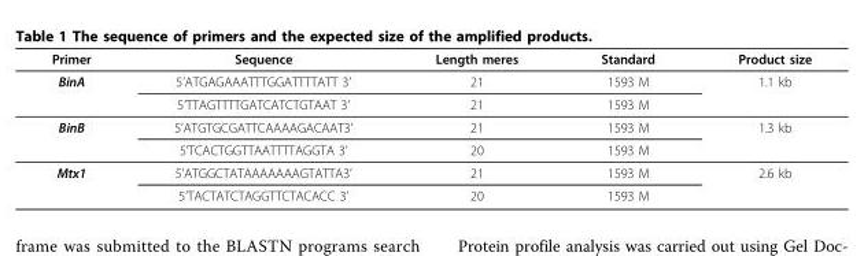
<table><thead><tr><td>Primer</td><td>Sequence</td><td>Length meres</td><td>Standard</td><td>Product size</td></tr></thead><tbody><tr><td rowspan="2">BinA</td><td>5’ATGAGAAATTTGGATTTTATT 3’</td><td>21</td><td>1593 M</td><td>1.1 kb</td></tr><tr><td>5’TTAGTTTTGATCATCTGTAAT 3’</td><td>21</td><td>1593 M</td><td></td></tr><tr><td rowspan="2">BinB</td><td>5’ATGTGCGATTCAAAAGACAAT3’</td><td>21</td><td>1593 M</td><td>1.3 kb</td></tr><tr><td>5’TCACTGGTTAATTTTAGGTA 3’</td><td>20</td><td>1593 M</td><td></td></tr><tr><td rowspan="2">Mtx1</td><td>5’ATGGCTATAAAAAAAGTATTA3’</td><td>21</td><td>1593 M</td><td>2.6 kb</td></tr><tr><td>5’TACTATCTAGGTTCTACACC 3’</td><td>20</td><td>1593 M</td><td></td></tr></tbody></table>